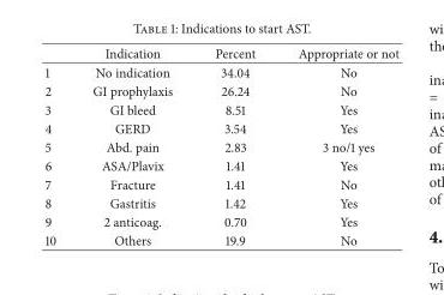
<table><thead><tr><td></td><td>Indication</td><td>Percent</td><td>Appropriate or not</td></tr></thead><tbody><tr><td>1</td><td>No indication</td><td>34.04</td><td>No</td></tr><tr><td>2</td><td>GI prophylaxis</td><td>26.24</td><td>No</td></tr><tr><td>3</td><td>GI bleed</td><td>8.51</td><td>Yes</td></tr><tr><td>4</td><td>GERD</td><td>3.54</td><td>Yes</td></tr><tr><td>5</td><td>Abd. pain</td><td>2.83</td><td>3 no/1 yes</td></tr><tr><td>6</td><td>ASA/Plavix</td><td>1.41</td><td>Yes</td></tr><tr><td>7</td><td>Fracture</td><td>1.41</td><td>No</td></tr><tr><td>8</td><td>Gastritis</td><td>1.42</td><td>Yes</td></tr><tr><td>9</td><td>2 anticoag.</td><td>0.70</td><td>Yes</td></tr><tr><td>10</td><td>Others</td><td>19.9</td><td>No</td></tr></tbody></table>